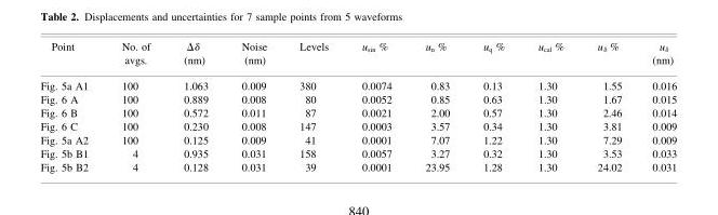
<table><thead><tr><td>Point</td><td>No. of avgs.</td><td>Δδ (nm)</td><td>Noise (nm)</td><td>Levels</td><td>u<sub>sin</sub> %</td><td>u<sub>n</sub> %</td><td>u<sub>q</sub> %</td><td>u<sub>cal</sub> %</td><td>u<sub>δ</sub> %</td><td>u<sub>δ</sub> (nm)</td></tr></thead><tbody><tr><td>Fig. 5a A1</td><td>100</td><td>1.063</td><td>0.009</td><td>380</td><td>0.0074</td><td>0.83</td><td>0.13</td><td>1.30</td><td>1.55</td><td>0.016</td></tr><tr><td>Fig. 6 A</td><td>100</td><td>0.889</td><td>0.008</td><td>80</td><td>0.0052</td><td>0.85</td><td>0.63</td><td>1.30</td><td>1.67</td><td>0.015</td></tr><tr><td>Fig. 6 B</td><td>100</td><td>0.572</td><td>0.011</td><td>87</td><td>0.0021</td><td>2.00</td><td>0.57</td><td>1.30</td><td>2.46</td><td>0.014</td></tr><tr><td>Fig. 6 C</td><td>100</td><td>0.230</td><td>0.008</td><td>147</td><td>0.0003</td><td>3.57</td><td>0.34</td><td>1.30</td><td>3.81</td><td>0.009</td></tr><tr><td>Fig. 5a A2</td><td>100</td><td>0.125</td><td>0.009</td><td>41</td><td>0.0001</td><td>7.07</td><td>1.22</td><td>1.30</td><td>7.29</td><td>0.009</td></tr><tr><td>Fig. 5b B1</td><td>4</td><td>0.935</td><td>0.031</td><td>158</td><td>0.0057</td><td>3.27</td><td>0.32</td><td>1.30</td><td>3.53</td><td>0.033</td></tr><tr><td>Fig. 5b B2</td><td>4</td><td>0.128</td><td>0.031</td><td>39</td><td>0.0001</td><td>23.95</td><td>1.28</td><td>1.30</td><td>24.02</td><td>0.031</td></tr></tbody></table>